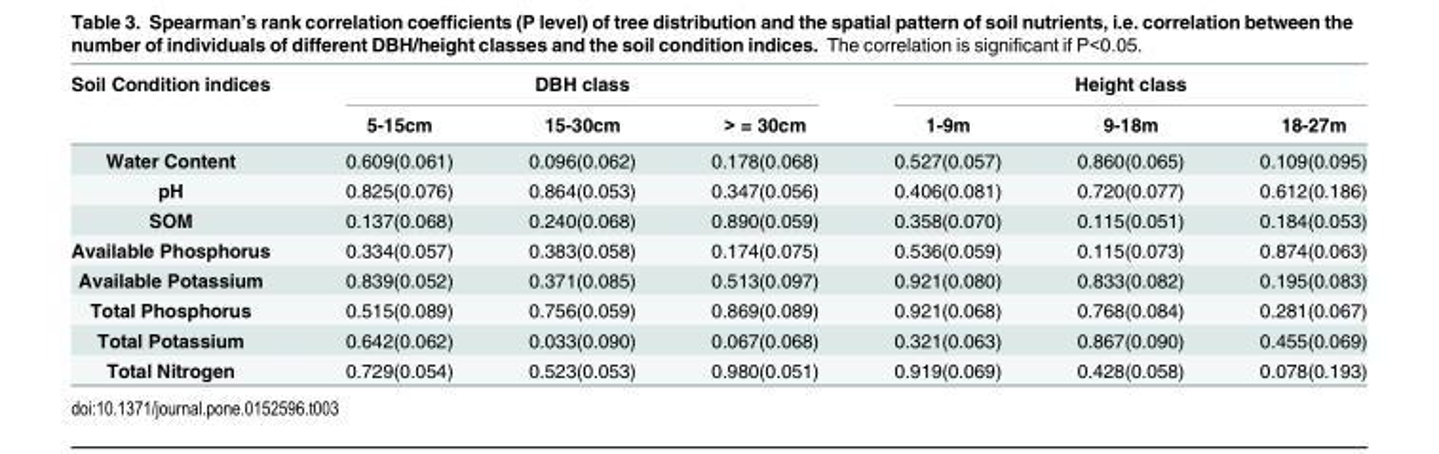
<table><thead><tr><td rowspan="2">Soil Condition indices</td><td colspan="3">DBH class</td><td colspan="3">Height class</td></tr><tr><td>5-15cm</td><td>15-30cm</td><td>&gt; = 30cm</td><td>1-9m</td><td>9-18m</td><td>18-27m</td></tr></thead><tbody><tr><td>Water Content</td><td>0.609(0.061)</td><td>0.096(0.062)</td><td>0.178(0.068)</td><td>0.527(0.057)</td><td>0.860(0.065)</td><td>0.109(0.095)</td></tr><tr><td>pH</td><td>0.825(0.076)</td><td>0.864(0.053)</td><td>0.347(0.056)</td><td>0.406(0.081)</td><td>0.720(0.077)</td><td>0.612(0.186)</td></tr><tr><td>SOM</td><td>0.137(0.068)</td><td>0.240(0.068)</td><td>0.890(0.059)</td><td>0.358(0.070)</td><td>0.115(0.051)</td><td>0.184(0.053)</td></tr><tr><td>Available Phosphorus</td><td>0.334(0.057)</td><td>0.383(0.058)</td><td>0.174(0.075)</td><td>0.536(0.059)</td><td>0.115(0.073)</td><td>0.874(0.063)</td></tr><tr><td>Available Potassium</td><td>0.839(0.052)</td><td>0.371(0.085)</td><td>0.513(0.097)</td><td>0.921(0.080)</td><td>0.833(0.082)</td><td>0.195(0.083)</td></tr><tr><td>Total Phosphorus</td><td>0.515(0.089)</td><td>0.756(0.059)</td><td>0.869(0.089)</td><td>0.921(0.068)</td><td>0.768(0.084)</td><td>0.281(0.067)</td></tr><tr><td>Total Potassium</td><td>0.642(0.062)</td><td>0.033(0.090)</td><td>0.067(0.068)</td><td>0.321(0.063)</td><td>0.867(0.090)</td><td>0.455(0.069)</td></tr><tr><td>Total Nitrogen</td><td>0.729(0.054)</td><td>0.523(0.053)</td><td>0.980(0.051)</td><td>0.919(0.069)</td><td>0.428(0.058)</td><td>0.078(0.193)</td></tr></tbody></table>